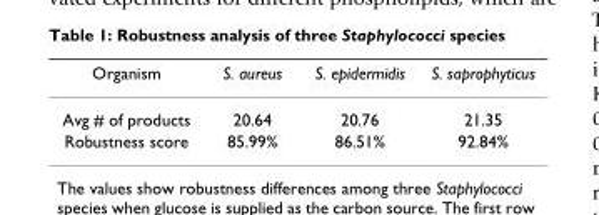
<table><thead><tr><td>Organism</td><td>S. aureus</td><td>S. epidermidis</td><td>S. saprophyticus</td></tr></thead><tbody><tr><td>Avg # of products</td><td>20.64</td><td>20.76</td><td>21.35</td></tr><tr><td>Robustness score</td><td>85.99%</td><td>86.51%</td><td>92.84%</td></tr></tbody></table>